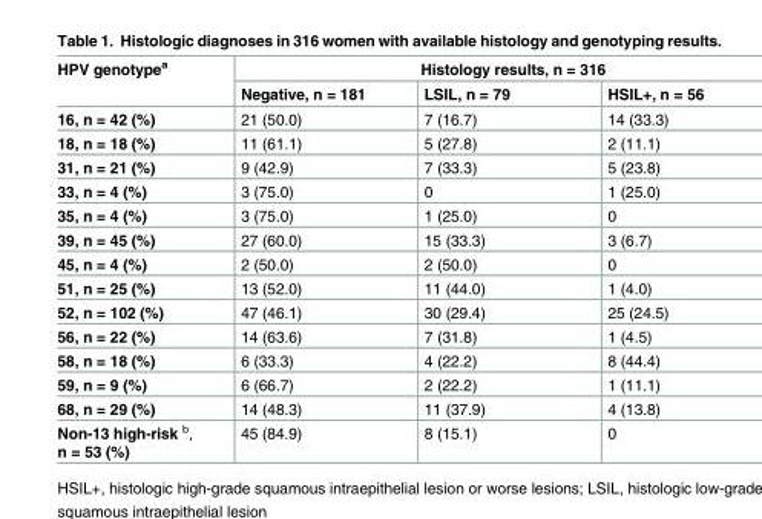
<table><thead><tr><td rowspan="2">HPV genotype<sup>a</sup></td><td colspan="3">Histology results, n = 316</td></tr><tr><td>Negative, n = 181</td><td>LSIL, n = 79</td><td>HSIL+, n = 56</td></tr></thead><tbody><tr><td>16, n = 42 (%)</td><td>21 (50.0)</td><td>7 (16.7)</td><td>14 (33.3)</td></tr><tr><td>18, n = 18 (%)</td><td>11 (61.1)</td><td>5 (27.8)</td><td>2 (11.1)</td></tr><tr><td>31, n = 21 (%)</td><td>9 (42.9)</td><td>7 (33.3)</td><td>5 (23.8)</td></tr><tr><td>33, n = 4 (%)</td><td>3 (75.0)</td><td>0</td><td>1 (25.0)</td></tr><tr><td>35, n = 4 (%)</td><td>3 (75.0)</td><td>1 (25.0)</td><td>0</td></tr><tr><td>39, n = 45 (%)</td><td>27 (60.0)</td><td>15 (33.3)</td><td>3 (6.7)</td></tr><tr><td>45, n = 4 (%)</td><td>2 (50.0)</td><td>2 (50.0)</td><td>0</td></tr><tr><td>51, n = 25 (%)</td><td>13 (52.0)</td><td>11 (44.0)</td><td>1 (4.0)</td></tr><tr><td>52, n = 102 (%)</td><td>47 (46.1)</td><td>30 (29.4)</td><td>25 (24.5)</td></tr><tr><td>56, n = 22 (%)</td><td>14 (63.6)</td><td>7 (31.8)</td><td>1 (4.5)</td></tr><tr><td>58, n = 18 (%)</td><td>6 (33.3)</td><td>4 (22.2)</td><td>8 (44.4)</td></tr><tr><td>59, n = 9 (%)</td><td>6 (66.7)</td><td>2 (22.2)</td><td>1 (11.1)</td></tr><tr><td>68, n = 29 (%)</td><td>14 (48.3)</td><td>11 (37.9)</td><td>4 (13.8)</td></tr><tr><td>Non-13 high-risk <sup>b</sup>, n = 53 (%)</td><td>45 (84.9)</td><td>8 (15.1)</td><td>0</td></tr></tbody></table>